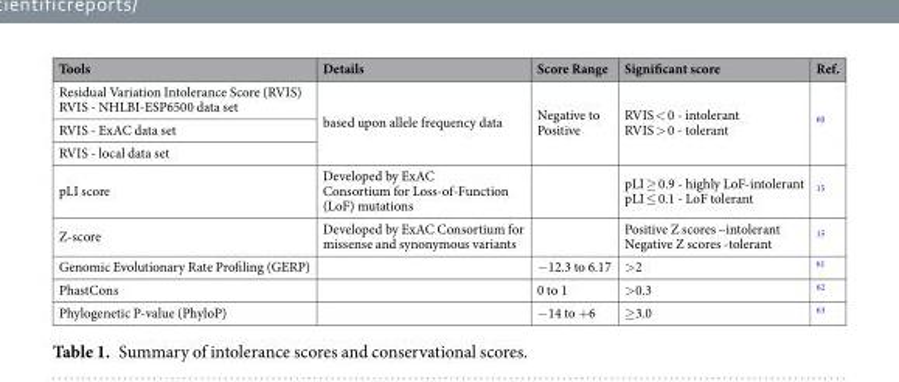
<table><thead><tr><td>Tools</td><td>Details</td><td>Score Range</td><td>Significant score</td><td>Ref.</td></tr></thead><tbody><tr><td>Residual Variation Intolerance Score (RVIS) RVIS - NHLBI-ESP6500 data set</td><td rowspan="3">based upon allele frequency data</td><td rowspan="3">Negative to Positive</td><td rowspan="3">RVIS &lt; 0 - intolerant RVIS &gt; 0 - tolerant</td><td rowspan="3"><sup>60</sup></td></tr><tr><td>RVIS - ExAC data set</td></tr><tr><td>RVIS - local data set</td></tr><tr><td>pLI score</td><td>Developed by ExAC Consortium for Loss-of-Function (LoF) mutations</td><td></td><td>pLI ≥ 0.9 - highly LoF-intolerant pLI ≤ 0.1 - LoF tolerant</td><td><sup>15</sup></td></tr><tr><td>Z-score</td><td>Developed by ExAC Consortium for missense and synonymous variants</td><td></td><td>Positive Z scores –intolerant Negative Z scores -tolerant</td><td><sup>15</sup></td></tr><tr><td>Genomic Evolutionary Rate Profiling (GERP)</td><td></td><td>−12.3 to 6.17</td><td>&gt;2</td><td><sup>61</sup></td></tr><tr><td>PhastCons</td><td></td><td>0 to 1</td><td>&gt;0.3</td><td><sup>62</sup></td></tr><tr><td>Phylogenetic P-value (PhyloP)</td><td></td><td>−14 to +6</td><td>≥3.0</td><td><sup>63</sup></td></tr></tbody></table>